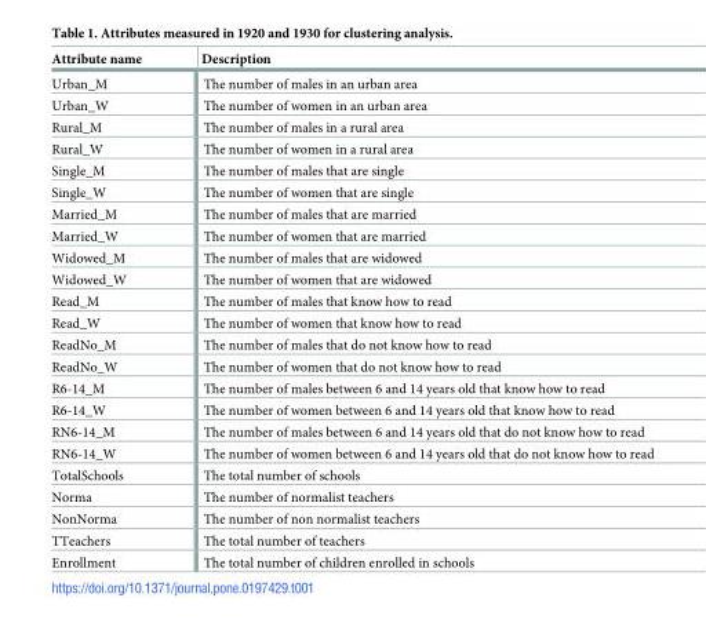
<table><thead><tr><td>Attribute name</td><td>Description</td></tr></thead><tbody><tr><td>Urban_M</td><td>The number of males in an urban area</td></tr><tr><td>Urban_W</td><td>The number of women in an urban area</td></tr><tr><td>Rural_M</td><td>The number of males in a rural area</td></tr><tr><td>Rural_W</td><td>The number of women in a rural area</td></tr><tr><td>Single_M</td><td>The number of males that are single</td></tr><tr><td>Single_W</td><td>The number of women that are single</td></tr><tr><td>Married_M</td><td>The number of males that are married</td></tr><tr><td>Married_W</td><td>The number of women that are married</td></tr><tr><td>Widowed_M</td><td>The number of males that are widowed</td></tr><tr><td>Widowed_W</td><td>The number of women that are widowed</td></tr><tr><td>Read_M</td><td>The number of males that know how to read</td></tr><tr><td>Read_W</td><td>The number of women that know how to read</td></tr><tr><td>ReadNo_M</td><td>The number of males that do not know how to read</td></tr><tr><td>ReadNo_W</td><td>The number of women that do not know how to read</td></tr><tr><td>R6-14_M</td><td>The number of males between 6 and 14 years old that know how to read</td></tr><tr><td>R6-14_W</td><td>The number of women between 6 and 14 years old that know how to read</td></tr><tr><td>RN6-14_M</td><td>The number of males between 6 and 14 years old that do not know how to read</td></tr><tr><td>RN6-14_W</td><td>The number of women between 6 and 14 years old that do not know how to read</td></tr><tr><td>TotalSchools</td><td>The total number of schools</td></tr><tr><td>Norma</td><td>The number of normalist teachers</td></tr><tr><td>NonNorma</td><td>The number of non normalist teachers</td></tr><tr><td>TTeachers</td><td>The total number of teachers</td></tr><tr><td>Enrollment</td><td>The total number of children enrolled in schools</td></tr></tbody></table>